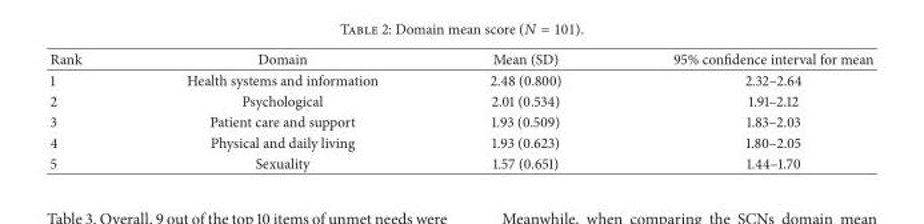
<table><thead><tr><td>Rank</td><td>Domain</td><td>Mean (SD)</td><td>95% confidence interval for mean</td></tr></thead><tbody><tr><td>1</td><td>Health systems and information</td><td>2.48 (0.800)</td><td>2.32–2.64</td></tr><tr><td>2</td><td>Psychological</td><td>2.01 (0.534)</td><td>1.91–2.12</td></tr><tr><td>3</td><td>Patient care and support</td><td>1.93 (0.509)</td><td>1.83–2.03</td></tr><tr><td>4</td><td>Physical and daily living</td><td>1.93 (0.623)</td><td>1.80–2.05</td></tr><tr><td>5</td><td>Sexuality</td><td>1.57 (0.651)</td><td>1.44–1.70</td></tr></tbody></table>